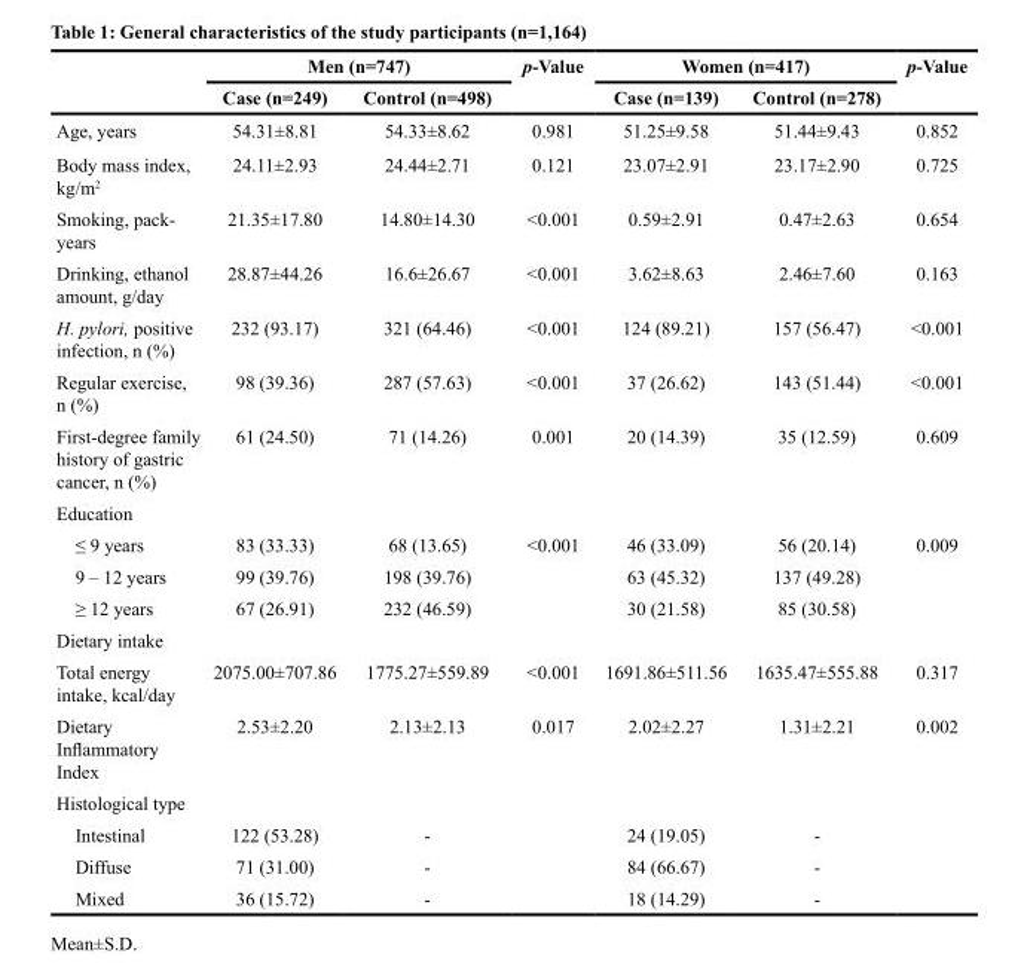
<table><thead><tr><td rowspan="2"></td><td colspan="2">Men (n=747)</td><td rowspan="2">p-Value</td><td colspan="2">Women (n=417)</td><td rowspan="2">p-Value</td></tr><tr><td>Case (n=249)</td><td>Control (n=498)</td><td>Case (n=139)</td><td>Control (n=278)</td></tr></thead><tbody><tr><td>Age, years</td><td>54.31±8.81</td><td>54.33±8.62</td><td>0.981</td><td>51.25±9.58</td><td>51.44±9.43</td><td>0.852</td></tr><tr><td>Body mass index, kg/m<sup>2</sup></td><td>24.11±2.93</td><td>24.44±2.71</td><td>0.121</td><td>23.07±2.91</td><td>23.17±2.90</td><td>0.725</td></tr><tr><td>Smoking, pack- years</td><td>21.35±17.80</td><td>14.80±14.30</td><td>&lt;0.001</td><td>0.59±2.91</td><td>0.47±2.63</td><td>0.654</td></tr><tr><td>Drinking, ethanol amount, g/day</td><td>28.87±44.26</td><td>16.6±26.67</td><td>&lt;0.001</td><td>3.62±8.63</td><td>2.46±7.60</td><td>0.163</td></tr><tr><td>H. pylori, positive infection, n (%)</td><td>232 (93.17)</td><td>321 (64.46)</td><td>&lt;0.001</td><td>124 (89.21)</td><td>157 (56.47)</td><td>&lt;0.001</td></tr><tr><td>Regular exercise, n (%)</td><td>98 (39.36)</td><td>287 (57.63)</td><td>&lt;0.001</td><td>37 (26.62)</td><td>143 (51.44)</td><td>&lt;0.001</td></tr><tr><td>First-degree family history of gastric cancer, n (%)</td><td>61 (24.50)</td><td>71 (14.26)</td><td>0.001</td><td>20 (14.39)</td><td>35 (12.59)</td><td>0.609</td></tr><tr><td colspan="7">Education</td></tr><tr><td>≤ 9 years</td><td>83 (33.33)</td><td>68 (13.65)</td><td>&lt;0.001</td><td>46 (33.09)</td><td>56 (20.14)</td><td>0.009</td></tr><tr><td>9 – 12 years</td><td>99 (39.76)</td><td>198 (39.76)</td><td></td><td>63 (45.32)</td><td>137 (49.28)</td><td></td></tr><tr><td>≥ 12 years</td><td>67 (26.91)</td><td>232 (46.59)</td><td></td><td>30 (21.58)</td><td>85 (30.58)</td><td></td></tr><tr><td colspan="7">Dietary intake</td></tr><tr><td>Total energy intake, kcal/day</td><td>2075.00±707.86</td><td>1775.27±559.89</td><td>&lt;0.001</td><td>1691.86±511.56</td><td>1635.47±555.88</td><td>0.317</td></tr><tr><td>Dietary Inflammatory Index</td><td>2.53±2.20</td><td>2.13±2.13</td><td>0.017</td><td>2.02±2.27</td><td>1.31±2.21</td><td>0.002</td></tr><tr><td colspan="7">Histological type</td></tr><tr><td>Intestinal</td><td>122 (53.28)</td><td>-</td><td></td><td>24 (19.05)</td><td>-</td><td></td></tr><tr><td>Diffuse</td><td>71 (31.00)</td><td>-</td><td></td><td>84 (66.67)</td><td>-</td><td></td></tr><tr><td>Mixed</td><td>36 (15.72)</td><td>-</td><td></td><td>18 (14.29)</td><td>-</td><td></td></tr></tbody></table>